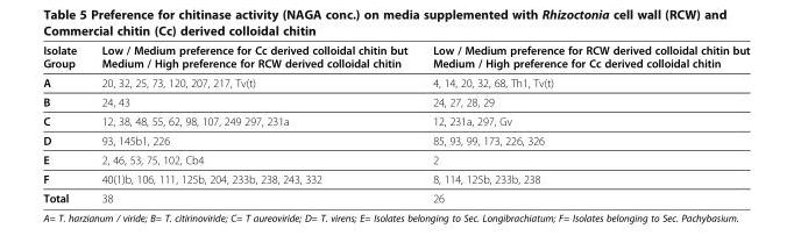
<table><thead><tr><td>Isolate Group</td><td>Low / Medium preference for Cc derived colloidal chitin but Medium / High preference for RCW derived colloidal chitin</td><td>Low / Medium preference for RCW derived colloidal chitin but Medium / High preference for Cc derived colloidal chitin</td></tr></thead><tbody><tr><td>A</td><td>20, 32, 25, 73, 120, 207, 217, Tv(t)</td><td>4, 14, 20, 32, 68, Th1, Tv(t)</td></tr><tr><td>B</td><td>24, 43</td><td>24, 27, 28, 29</td></tr><tr><td>C</td><td>12, 38, 48, 55, 62, 98, 107, 249 297, 231a</td><td>12, 231a, 297, Gv</td></tr><tr><td>D</td><td>93, 145b1, 226</td><td>85, 93, 99, 173, 226, 326</td></tr><tr><td>E</td><td>2, 46, 53, 75, 102, Cb4</td><td>2</td></tr><tr><td>F</td><td>40(1)b, 106, 111, 125b, 204, 233b, 238, 243, 332</td><td>8, 114, 125b, 233b, 238</td></tr><tr><td>Total</td><td>38</td><td>26</td></tr></tbody></table>